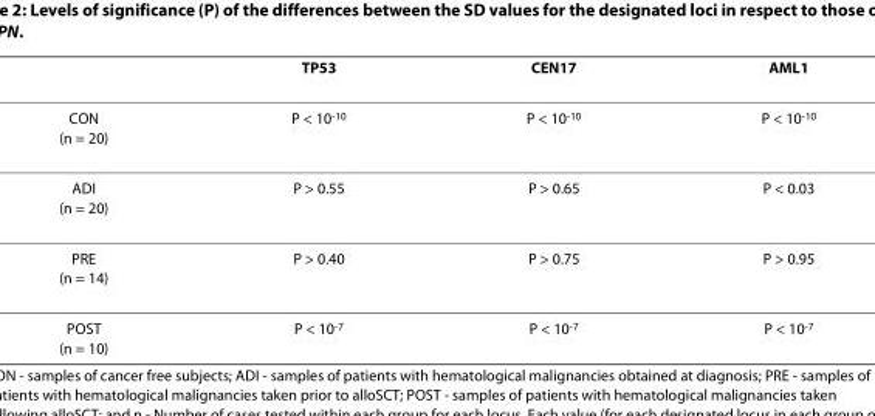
<table><thead><tr><td></td><td>TP53</td><td>CEN17</td><td>AML1</td></tr></thead><tbody><tr><td>CON (n = 20)</td><td>P &lt; 10<sup>-10</sup></td><td>P &lt; 10<sup>-10</sup></td><td>P &lt; 10<sup>-10</sup></td></tr><tr><td>ADI (n = 20)</td><td>P &gt; 0.55</td><td>P &gt; 0.65</td><td>P &lt; 0.03</td></tr><tr><td>PRE (n = 14)</td><td>P &gt; 0.40</td><td>P &gt; 0.75</td><td>P &gt; 0.95</td></tr><tr><td>POST (n = 10)</td><td>P &lt; 10<sup>-7</sup></td><td>P &lt; 10<sup>-7</sup></td><td>P &lt; 10<sup>-7</sup></td></tr></tbody></table>